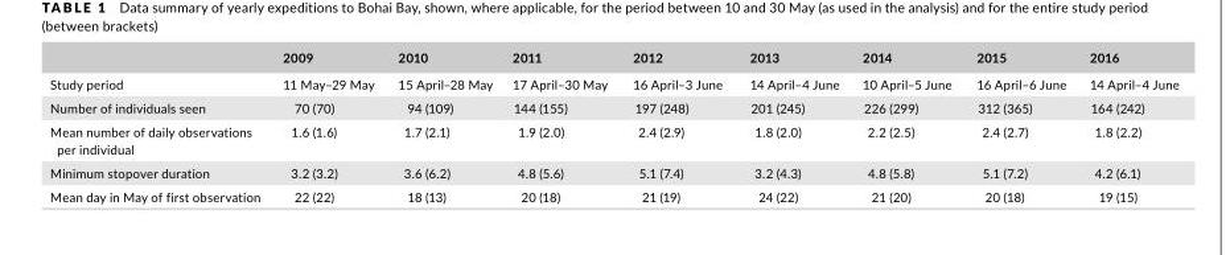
<table><thead><tr><td></td><td>2009</td><td>2010</td><td>2011</td><td>2012</td><td>2013</td><td>2014</td><td>2015</td><td>2016</td></tr></thead><tbody><tr><td>Study period</td><td>11 May–29 May</td><td>15 April–28 May</td><td>17 April–30 May</td><td>16 April–3 June</td><td>14 April–4 June</td><td>10 April–5 June</td><td>16 April–6 June</td><td>14 April–4 June</td></tr><tr><td>Number of individuals seen</td><td>70 (70)</td><td>94 (109)</td><td>144 (155)</td><td>197 (248)</td><td>201 (245)</td><td>226 (299)</td><td>312 (365)</td><td>164 (242)</td></tr><tr><td>Mean number of daily observations per individual</td><td>1.6 (1.6)</td><td>1.7 (2.1)</td><td>1.9 (2.0)</td><td>2.4 (2.9)</td><td>1.8 (2.0)</td><td>2.2 (2.5)</td><td>2.4 (2.7)</td><td>1.8 (2.2)</td></tr><tr><td>Minimum stopover duration</td><td>3.2 (3.2)</td><td>3.6 (6.2)</td><td>4.8 (5.6)</td><td>5.1 (7.4)</td><td>3.2 (4.3)</td><td>4.8 (5.8)</td><td>5.1 (7.2)</td><td>4.2 (6.1)</td></tr><tr><td>Mean day in May of first observation</td><td>22 (22)</td><td>18 (13)</td><td>20 (18)</td><td>21 (19)</td><td>24 (22)</td><td>21 (20)</td><td>20 (18)</td><td>19 (15)</td></tr></tbody></table>